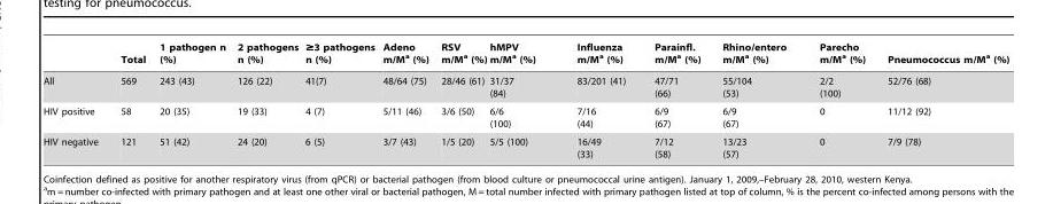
<table><thead><tr><td></td><td>Total</td><td>1 pathogen n (%)</td><td>2 pathogens n (%)</td><td>≥3 pathogens n (%)</td><td>Adeno m/M<sup>a</sup> (%)</td><td>RSV m/M<sup>a</sup> (%)</td><td>hMPV m/M<sup>a</sup> (%)</td><td>Influenza m/M<sup>a</sup> (%)</td><td>Parainfl. m/M<sup>a</sup> (%)</td><td>Rhino/entero m/M<sup>a</sup> (%)</td><td>Parecho m/M<sup>a</sup> (%)</td><td>Pneumococcus m/M<sup>a</sup> (%)</td></tr></thead><tbody><tr><td>All</td><td>569</td><td>243 (43)</td><td>126 (22)</td><td>41(7)</td><td>48/64 (75)</td><td>28/46 (61)</td><td>31/37 (84)</td><td>83/201 (41)</td><td>47/71 (66)</td><td>55/104 (53)</td><td>2/2 (100)</td><td>52/76 (68)</td></tr><tr><td>HIV positive</td><td>58</td><td>20 (35)</td><td>19 (33)</td><td>4 (7)</td><td>5/11 (46)</td><td>3/6 (50)</td><td>6/6 (100)</td><td>7/16 (44)</td><td>6/9 (67)</td><td>6/9 (67)</td><td>0</td><td>11/12 (92)</td></tr><tr><td>HIV negative</td><td>121</td><td>51 (42)</td><td>24 (20)</td><td>6 (5)</td><td>3/7 (43)</td><td>1/5 (20)</td><td>5/5 (100)</td><td>16/49 (33)</td><td>7/12 (58)</td><td>13/23 (57)</td><td>0</td><td>7/9 (78)</td></tr></tbody></table>